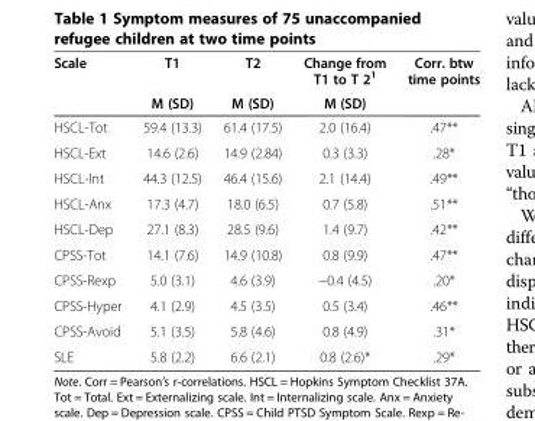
<table><thead><tr><td rowspan="2">Scale</td><td rowspan="2">T1 M (SD)</td><td rowspan="2">T2 M (SD)</td><td rowspan="2">Change from T1 to T 2<sup>1</sup> M (SD)</td><td rowspan="2">Corr. btw time points</td></tr><tr></tr></thead><tbody><tr><td>HSCL-Tot</td><td>59.4 (13.3)</td><td>61.4 (17.5)</td><td>2.0 (16.4)</td><td>.47**</td></tr><tr><td>HSCL-Ext</td><td>14.6 (2.6)</td><td>14.9 (2.84)</td><td>0.3 (3.3)</td><td>.28*</td></tr><tr><td>HSCL-Int</td><td>44.3 (12.5)</td><td>46.4 (15.6)</td><td>2.1 (14.4)</td><td>.49**</td></tr><tr><td>HSCL-Anx</td><td>17.3 (4.7)</td><td>18.0 (6.5)</td><td>0.7 (5.8)</td><td>.51**</td></tr><tr><td>HSCL-Dep</td><td>27.1 (8.3)</td><td>28.5 (9.6)</td><td>1.4 (9.7)</td><td>.42**</td></tr><tr><td>CPSS-Tot</td><td>14.1 (7.6)</td><td>14.9 (10.8)</td><td>0.8 (9.9)</td><td>.47**</td></tr><tr><td>CPSS-Rexp</td><td>5.0 (3.1)</td><td>4.6 (3.9)</td><td>−0.4 (4.5)</td><td>.20*</td></tr><tr><td>CPSS-Hyper</td><td>4.1 (2.9)</td><td>4.5 (3.5)</td><td>0.5 (3.4)</td><td>.46**</td></tr><tr><td>CPSS-Avoid</td><td>5.1 (3.5)</td><td>5.8 (4.6)</td><td>0.8 (4.9)</td><td>.31*</td></tr><tr><td>SLE</td><td>5.8 (2.2)</td><td>6.6 (2.1)</td><td>0.8 (2.6)*</td><td>.29*</td></tr></tbody></table>